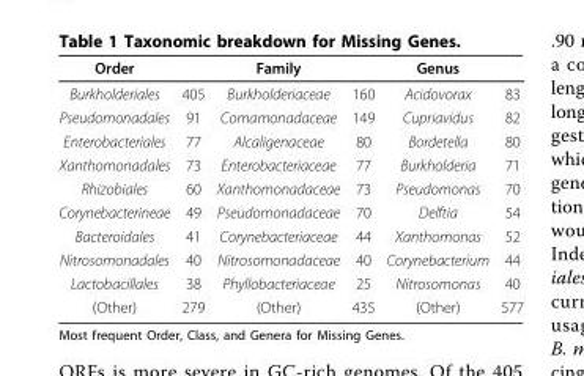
<table><thead><tr><td>Order</td><td></td><td>Family</td><td></td><td>Genus</td><td></td></tr></thead><tbody><tr><td>Burkholderiales</td><td>405</td><td>Burkholderiaceae</td><td>160</td><td>Acidovorax</td><td>83</td></tr><tr><td>Pseudomonadales</td><td>91</td><td>Comamonadaceae</td><td>149</td><td>Cupriavidus</td><td>82</td></tr><tr><td>Enterobacteriales</td><td>77</td><td>Alcaligenaceae</td><td>80</td><td>Bordetella</td><td>80</td></tr><tr><td>Xanthomonadales</td><td>73</td><td>Enterobacteriaceae</td><td>77</td><td>Burkholderia</td><td>71</td></tr><tr><td>Rhizobiales</td><td>60</td><td>Xanthomonadaceae</td><td>73</td><td>Pseudomonas</td><td>70</td></tr><tr><td>Corynebacterineae</td><td>49</td><td>Pseudomonadaceae</td><td>70</td><td>Delftia</td><td>54</td></tr><tr><td>Bacteroidales</td><td>41</td><td>Corynebacteriaceae</td><td>44</td><td>Xanthomonas</td><td>52</td></tr><tr><td>Nitrosomonadales</td><td>40</td><td>Nitrosomonadaceae</td><td>40</td><td>Corynebacterium</td><td>44</td></tr><tr><td>Lactobacillales</td><td>38</td><td>Phyllobacteriaceae</td><td>25</td><td>Nitrosomonas</td><td>40</td></tr><tr><td>(Other)</td><td>279</td><td>(Other)</td><td>435</td><td>(Other)</td><td>577</td></tr></tbody></table>